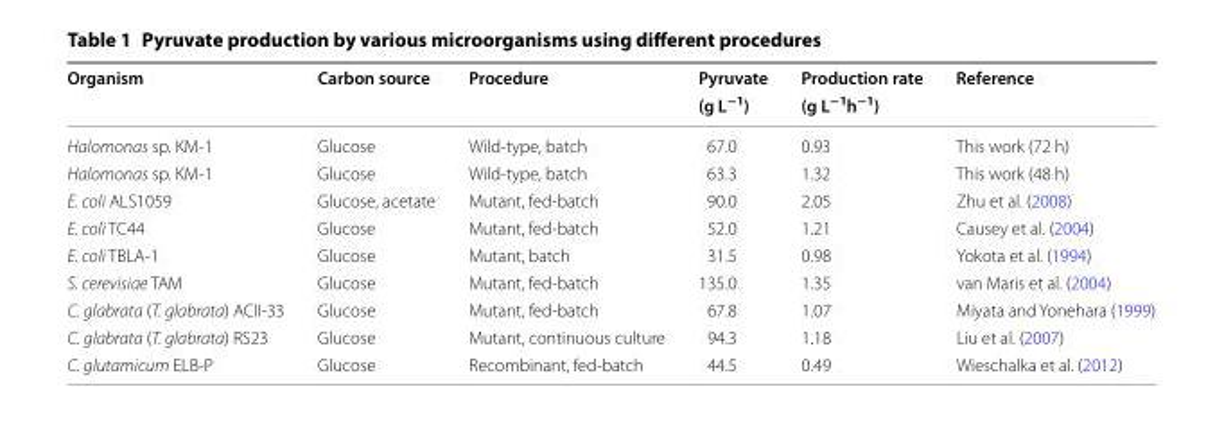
<table><thead><tr><td rowspan="2">Organism</td><td rowspan="2">Carbon source</td><td rowspan="2">Procedure</td><td rowspan="2">Pyruvate (g L<sup>−1</sup>)</td><td rowspan="2">Production rate (g L<sup>−1</sup>h<sup>−1</sup>)</td><td rowspan="2">Reference</td></tr><tr></tr></thead><tbody><tr><td>Halomonas sp. KM-1</td><td>Glucose</td><td>Wild-type, batch</td><td>67.0</td><td>0.93</td><td>This work (72 h)</td></tr><tr><td>Halomonas sp. KM-1</td><td>Glucose</td><td>Wild-type, batch</td><td>63.3</td><td>1.32</td><td>This work (48 h)</td></tr><tr><td>E. coli ALS1059</td><td>Glucose, acetate</td><td>Mutant, fed-batch</td><td>90.0</td><td>2.05</td><td>Zhu et al. (2008)</td></tr><tr><td>E. coli TC44</td><td>Glucose</td><td>Mutant, fed-batch</td><td>52.0</td><td>1.21</td><td>Causey et al. (2004)</td></tr><tr><td>E. coli TBLA-1</td><td>Glucose</td><td>Mutant, batch</td><td>31.5</td><td>0.98</td><td>Yokota et al. (1994)</td></tr><tr><td>S. cerevisiae TAM</td><td>Glucose</td><td>Mutant, fed-batch</td><td>135.0</td><td>1.35</td><td>van Maris et al. (2004)</td></tr><tr><td>C. glabrata (T. glabrata) ACII-33</td><td>Glucose</td><td>Mutant, fed-batch</td><td>67.8</td><td>1.07</td><td>Miyata and Yonehara (1999)</td></tr><tr><td>C. glabrata (T. glabrata) RS23</td><td>Glucose</td><td>Mutant, continuous culture</td><td>94.3</td><td>1.18</td><td>Liu et al. (2007)</td></tr><tr><td>C. glutamicum ELB-P</td><td>Glucose</td><td>Recombinant, fed-batch</td><td>44.5</td><td>0.49</td><td>Wieschalka et al. (2012)</td></tr></tbody></table>